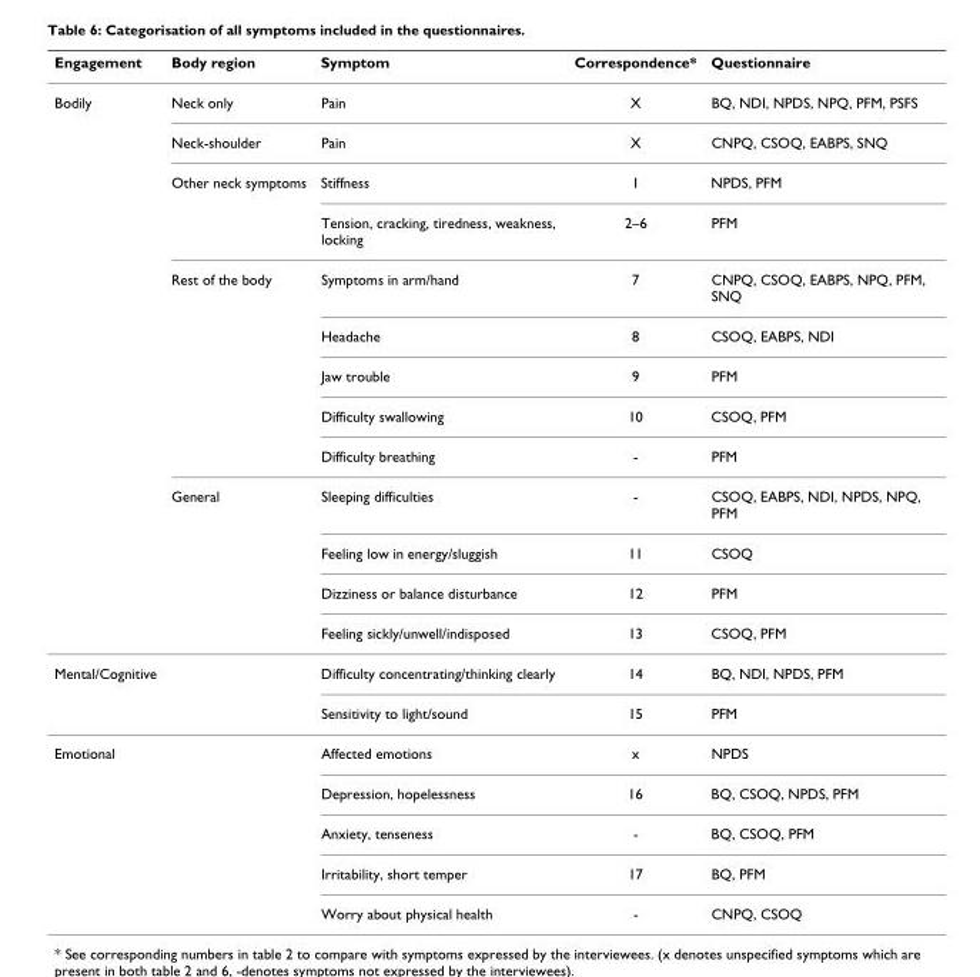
<table><thead><tr><td>Engagement</td><td>Body region</td><td>Symptom</td><td>Correspondence*</td><td>Questionnaire</td></tr></thead><tbody><tr><td rowspan="13">Bodily</td><td>Neck only</td><td>Pain</td><td>X</td><td>BQ, NDI, NPDS, NPQ, PFM, PSFS</td></tr><tr><td>Neck-shoulder</td><td>Pain</td><td>X</td><td>CNPQ, CSOQ, EABPS, SNQ</td></tr><tr><td>Other neck symptoms</td><td>Stiffness</td><td>1</td><td>NPDS, PFM</td></tr><tr><td></td><td>Tension, cracking, tiredness, weakness, locking</td><td>2–6</td><td>PFM</td></tr><tr><td>Rest of the body</td><td>Symptoms in arm/hand</td><td>7</td><td>CNPQ, CSOQ, EABPS, NPQ, PFM, SNQ</td></tr><tr><td></td><td>Headache</td><td>8</td><td>CSOQ, EABPS, NDI</td></tr><tr><td></td><td>Jaw trouble</td><td>9</td><td>PFM</td></tr><tr><td></td><td>Difficulty swallowing</td><td>10</td><td>CSOQ, PFM</td></tr><tr><td></td><td>Difficulty breathing</td><td>-</td><td>PFM</td></tr><tr><td>General</td><td>Sleeping difficulties</td><td>-</td><td>CSOQ, EABPS, NDI, NPDS, NPQ, PFM</td></tr><tr><td></td><td>Feeling low in energy/sluggish</td><td>11</td><td>CSOQ</td></tr><tr><td></td><td>Dizziness or balance disturbance</td><td>12</td><td>PFM</td></tr><tr><td></td><td>Feeling sickly/unwell/indisposed</td><td>13</td><td>CSOQ, PFM</td></tr><tr><td rowspan="2">Mental/Cognitive</td><td></td><td>Difficulty concentrating/thinking clearly</td><td>14</td><td>BQ, NDI, NPDS, PFM</td></tr><tr><td></td><td>Sensitivity to light/sound</td><td>15</td><td>PFM</td></tr><tr><td rowspan="5">Emotional</td><td></td><td>Affected emotions</td><td>x</td><td>NPDS</td></tr><tr><td></td><td>Depression, hopelessness</td><td>16</td><td>BQ, CSOQ, NPDS, PFM</td></tr><tr><td></td><td>Anxiety, tenseness</td><td>-</td><td>BQ, CSOQ, PFM</td></tr><tr><td></td><td>Irritability, short temper</td><td>17</td><td>BQ, PFM</td></tr><tr><td></td><td>Worry about physical health</td><td>-</td><td>CNPQ, CSOQ</td></tr></tbody></table>